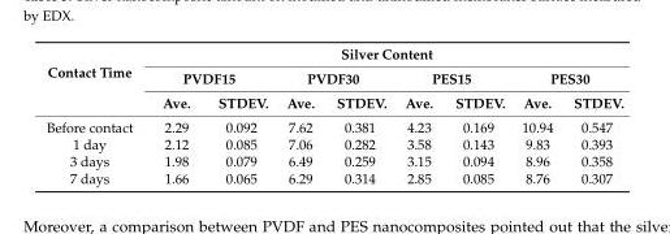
<table><thead><tr><td rowspan="3">Contact Time</td><td colspan="8">Silver Content</td></tr><tr><td colspan="2">PVDF15</td><td colspan="2">PVDF30</td><td colspan="2">PES15</td><td colspan="2">PES30</td></tr><tr><td>Ave.</td><td>STDEV.</td><td>Ave.</td><td>STDEV.</td><td>Ave.</td><td>STDEV.</td><td>Ave.</td><td>STDEV.</td></tr></thead><tbody><tr><td>Before contact</td><td>2.29</td><td>0.092</td><td>7.62</td><td>0.381</td><td>4.23</td><td>0.169</td><td>10.94</td><td>0.547</td></tr><tr><td>1 day</td><td>2.12</td><td>0.085</td><td>7.06</td><td>0.282</td><td>3.58</td><td>0.143</td><td>9.83</td><td>0.393</td></tr><tr><td>3 days</td><td>1.98</td><td>0.079</td><td>6.49</td><td>0.259</td><td>3.15</td><td>0.094</td><td>8.96</td><td>0.358</td></tr><tr><td>7 days</td><td>1.66</td><td>0.065</td><td>6.29</td><td>0.314</td><td>2.85</td><td>0.085</td><td>8.76</td><td>0.307</td></tr></tbody></table>